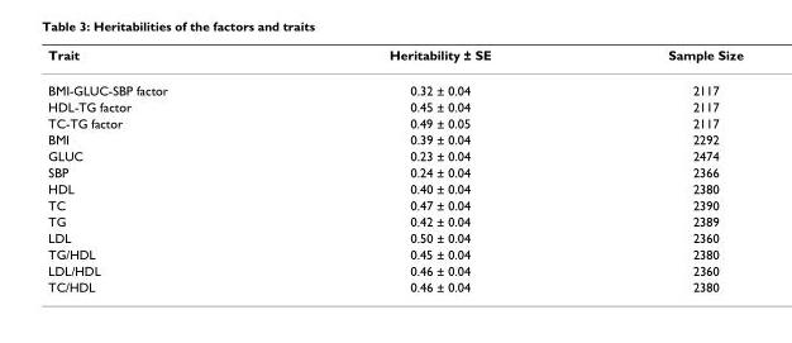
<table><thead><tr><td>Trait</td><td>Heritability ± SE</td><td>Sample Size</td></tr></thead><tbody><tr><td>BMI-GLUC-SBP factor</td><td>0.32 ± 0.04</td><td>2117</td></tr><tr><td>HDL-TG factor</td><td>0.45 ± 0.04</td><td>2117</td></tr><tr><td>TC-TG factor</td><td>0.49 ± 0.05</td><td>2117</td></tr><tr><td>BMI</td><td>0.39 ± 0.04</td><td>2292</td></tr><tr><td>GLUC</td><td>0.23 ± 0.04</td><td>2474</td></tr><tr><td>SBP</td><td>0.24 ± 0.04</td><td>2366</td></tr><tr><td>HDL</td><td>0.40 ± 0.04</td><td>2380</td></tr><tr><td>TC</td><td>0.47 ± 0.04</td><td>2390</td></tr><tr><td>TG</td><td>0.42 ± 0.04</td><td>2389</td></tr><tr><td>LDL</td><td>0.50 ± 0.04</td><td>2360</td></tr><tr><td>TG/HDL</td><td>0.45 ± 0.04</td><td>2380</td></tr><tr><td>LDL/HDL</td><td>0.46 ± 0.04</td><td>2360</td></tr><tr><td>TC/HDL</td><td>0.46 ± 0.04</td><td>2380</td></tr></tbody></table>